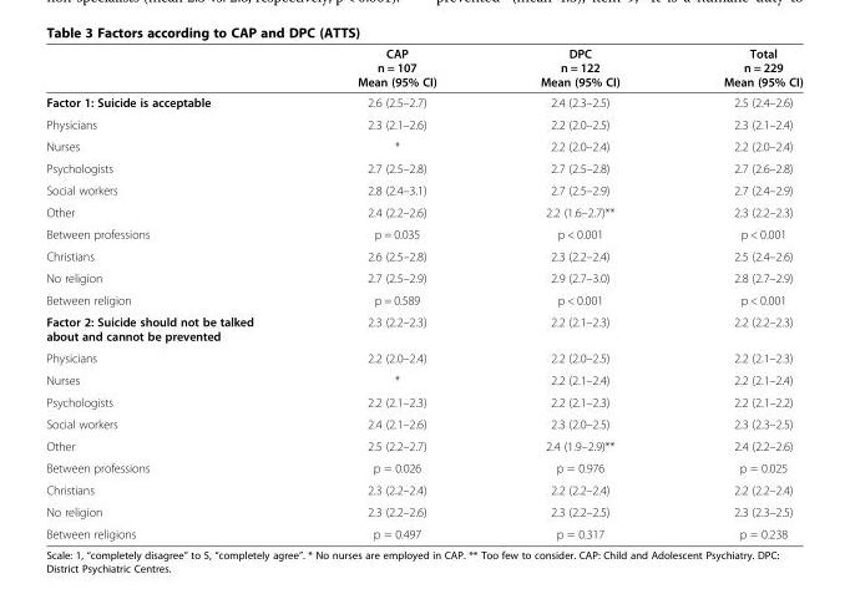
<table><thead><tr><td></td><td>CAP n = 107 Mean (95% CI)</td><td>DPC n = 122 Mean (95% CI)</td><td>Total n = 229 Mean (95% CI)</td></tr></thead><tbody><tr><td>Factor 1: Suicide is acceptable</td><td>2.6 (2.5–2.7)</td><td>2.4 (2.3–2.5)</td><td>2.5 (2.4–2.6)</td></tr><tr><td>Physicians</td><td>2.3 (2.1–2.6)</td><td>2.2 (2.0–2.5)</td><td>2.3 (2.1–2.4)</td></tr><tr><td>Nurses</td><td>*</td><td>2.2 (2.0–2.4)</td><td>2.2 (2.0–2.4)</td></tr><tr><td>Psychologists</td><td>2.7 (2.5–2.8)</td><td>2.7 (2.5–2.8)</td><td>2.7 (2.6–2.8)</td></tr><tr><td>Social workers</td><td>2.8 (2.4–3.1)</td><td>2.7 (2.5–2.9)</td><td>2.7 (2.4–2.9)</td></tr><tr><td>Other</td><td>2.4 (2.2–2.6)</td><td>2.2 (1.6–2.7)**</td><td>2.3 (2.2–2.3)</td></tr><tr><td>Between professions</td><td>p = 0.035</td><td>p &lt; 0.001</td><td>p &lt; 0.001</td></tr><tr><td>Christians</td><td>2.6 (2.5–2.8)</td><td>2.3 (2.2–2.4)</td><td>2.5 (2.4–2.6)</td></tr><tr><td>No religion</td><td>2.7 (2.5–2.9)</td><td>2.9 (2.7–3.0)</td><td>2.8 (2.7–2.9)</td></tr><tr><td>Between religion</td><td>p = 0.589</td><td>p &lt; 0.001</td><td>p &lt; 0.001</td></tr><tr><td>Factor 2: Suicide should not be talked about and cannot be prevented</td><td>2.3 (2.2–2.3)</td><td>2.2 (2.1–2.3)</td><td>2.2 (2.2–2.3)</td></tr><tr><td>Physicians</td><td>2.2 (2.0–2.4)</td><td>2.2 (2.0–2.5)</td><td>2.2 (2.1–2.3)</td></tr><tr><td>Nurses</td><td>*</td><td>2.2 (2.1–2.4)</td><td>2.2 (2.1–2.4)</td></tr><tr><td>Psychologists</td><td>2.2 (2.1–2.3)</td><td>2.2 (2.1–2.3)</td><td>2.2 (2.1–2.2)</td></tr><tr><td>Social workers</td><td>2.4 (2.1–2.6)</td><td>2.3 (2.0–2.5)</td><td>2.3 (2.3–2.5)</td></tr><tr><td>Other</td><td>2.5 (2.2–2.7)</td><td>2.4 (1.9–2.9)**</td><td>2.4 (2.2–2.6)</td></tr><tr><td>Between professions</td><td>p = 0.026</td><td>p = 0.976</td><td>p = 0.025</td></tr><tr><td>Christians</td><td>2.3 (2.2–2.4)</td><td>2.2 (2.2–2.4)</td><td>2.2 (2.2–2.4)</td></tr><tr><td>No religion</td><td>2.3 (2.2–2.6)</td><td>2.3 (2.2–2.5)</td><td>2.3 (2.3–2.5)</td></tr><tr><td>Between religions</td><td>p = 0.497</td><td>p = 0.317</td><td>p = 0.238</td></tr></tbody></table>